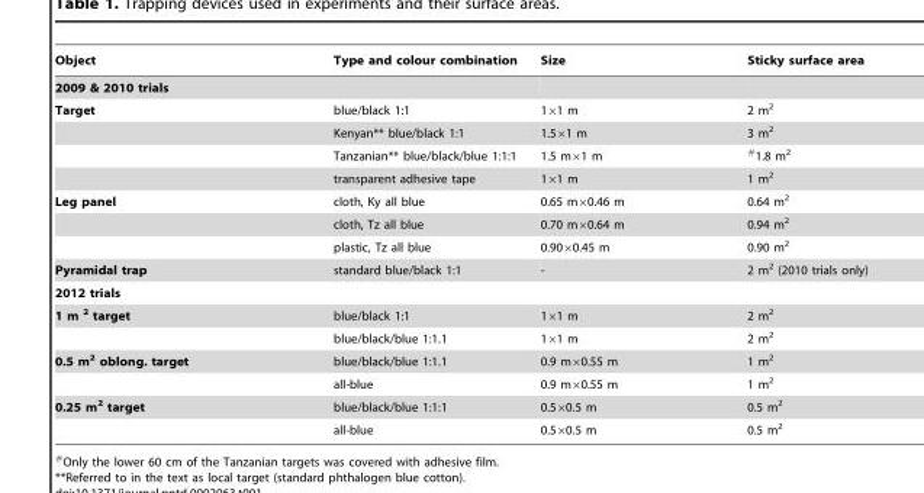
<table><thead><tr><td>Object</td><td>Type and colour combination</td><td>Size</td><td>Sticky surface area</td></tr></thead><tbody><tr><td colspan="4">2009 &amp; 2010 trials</td></tr><tr><td rowspan="4">Target</td><td>blue/black 1:1</td><td>1×1 m</td><td>2 m<sup>2</sup></td></tr><tr><td>Kenyan** blue/black 1:1</td><td>1.5×1 m</td><td>3 m<sup>2</sup></td></tr><tr><td>Tanzanian** blue/black/blue 1:1:1</td><td>1.5 m×1 m</td><td>#1.8 m<sup>2</sup></td></tr><tr><td>transparent adhesive tape</td><td>1×1 m</td><td>1 m<sup>2</sup></td></tr><tr><td rowspan="3">Leg panel</td><td>cloth, Ky all blue</td><td>0.65 m×0.46 m</td><td>0.64 m<sup>2</sup></td></tr><tr><td>cloth, Tz all blue</td><td>0.70 m×0.64 m</td><td>0.94 m<sup>2</sup></td></tr><tr><td>plastic, Tz all blue</td><td>0.90×0.45 m</td><td>0.90 m<sup>2</sup></td></tr><tr><td>Pyramidal trap</td><td>standard blue/black 1:1</td><td>-</td><td>2 m<sup>2</sup> (2010 trials only)</td></tr><tr><td colspan="4">2012 trials</td></tr><tr><td rowspan="2">1 m <sup>2</sup> target</td><td>blue/black 1:1</td><td>1×1 m</td><td>2 m<sup>2</sup></td></tr><tr><td>blue/black/blue 1:1.1</td><td>1×1 m</td><td>2 m<sup>2</sup></td></tr><tr><td rowspan="2">0.5 m<sup>2</sup> oblong. target</td><td>blue/black/blue 1:1.1</td><td>0.9 m×0.55 m</td><td>1 m<sup>2</sup></td></tr><tr><td>all-blue</td><td>0.9 m×0.55 m</td><td>1 m<sup>2</sup></td></tr><tr><td rowspan="2">0.25 m<sup>2</sup> target</td><td>blue/black/blue 1:1:1</td><td>0.5×0.5 m</td><td>0.5 m<sup>2</sup></td></tr><tr><td>all-blue</td><td>0.5×0.5 m</td><td>0.5 m<sup>2</sup></td></tr></tbody></table>